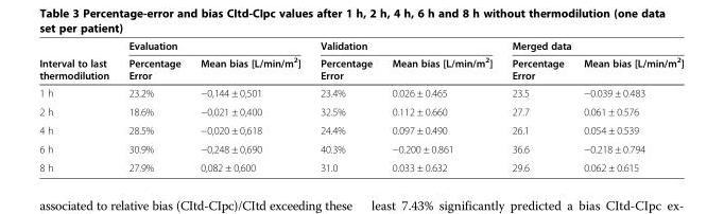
<table><thead><tr><td rowspan="2">Interval to last thermodilution</td><td colspan="2">Evaluation</td><td colspan="2">Validation</td><td colspan="2">Merged data</td></tr><tr><td>Percentage Error</td><td>Mean bias [L/min/m<sup>2</sup>]</td><td>Percentage Error</td><td>Mean bias [L/min/m<sup>2</sup>]</td><td>Percentage Error</td><td>Mean bias [L/min/m<sup>2</sup>]</td></tr></thead><tbody><tr><td>1 h</td><td>23.2%</td><td>−0,144 ± 0,501</td><td>23.4%</td><td>0.026 ± 0.465</td><td>23.5</td><td>−0.039 ± 0.483</td></tr><tr><td>2 h</td><td>18.6%</td><td>−0,021 ± 0,400</td><td>32.5%</td><td>0.112 ± 0.660</td><td>27.7</td><td>0.061 ± 0.576</td></tr><tr><td>4 h</td><td>28.5%</td><td>−0,020 ± 0,618</td><td>24.4%</td><td>0.097 ± 0.490</td><td>26.1</td><td>0.054 ± 0.539</td></tr><tr><td>6 h</td><td>30.9%</td><td>−0,248 ± 0,690</td><td>40.3%</td><td>−0.200 ± 0.861</td><td>36.6</td><td>−0.218 ± 0.794</td></tr><tr><td>8 h</td><td>27.9%</td><td>0,082 ± 0,600</td><td>31.0</td><td>0.033 ± 0.632</td><td>29.6</td><td>0.062 ± 0.615</td></tr></tbody></table>